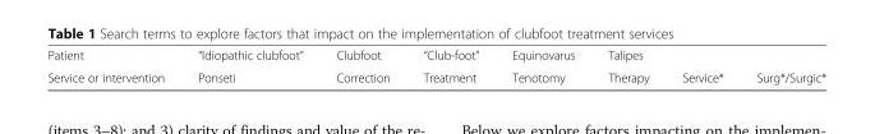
<table><tbody><tr><td>Patient</td><td>“Idiopathic clubfoot”</td><td>Clubfoot</td><td>“Club-foot”</td><td>Equinovarus</td><td>Talipes</td><td></td><td></td></tr><tr><td>Service or intervention</td><td>Ponseti</td><td>Correction</td><td>Treatment</td><td>Tenotomy</td><td>Therapy</td><td>Service*</td><td>Surg*/Surgic*</td></tr></tbody></table>